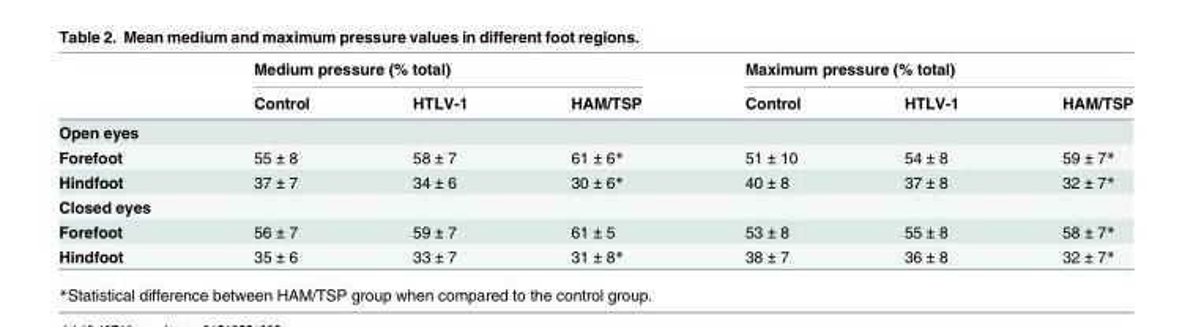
<table><thead><tr><td rowspan="2"></td><td colspan="3">Medium pressure (% total)</td><td colspan="3">Maximum pressure (% total)</td></tr><tr><td>Control</td><td>HTLV-1</td><td>HAM/TSP</td><td>Control</td><td>HTLV-1</td><td>HAM/TSP</td></tr></thead><tbody><tr><td colspan="7">Open eyes</td></tr><tr><td>Forefoot</td><td>55 ± 8</td><td>58 ± 7</td><td>61 ± 6*</td><td>51 ± 10</td><td>54 ± 8</td><td>59 ± 7*</td></tr><tr><td>Hindfoot</td><td>37 ± 7</td><td>34 ± 6</td><td>30 ± 6*</td><td>40 ± 8</td><td>37 ± 8</td><td>32 ± 7*</td></tr><tr><td colspan="7">Closed eyes</td></tr><tr><td>Forefoot</td><td>56 ± 7</td><td>59 ± 7</td><td>61 ± 5</td><td>53 ± 8</td><td>55 ± 8</td><td>58 ± 7*</td></tr><tr><td>Hindfoot</td><td>35 ± 6</td><td>33 ± 7</td><td>31 ± 8*</td><td>38 ± 7</td><td>36 ± 8</td><td>32 ± 7*</td></tr></tbody></table>